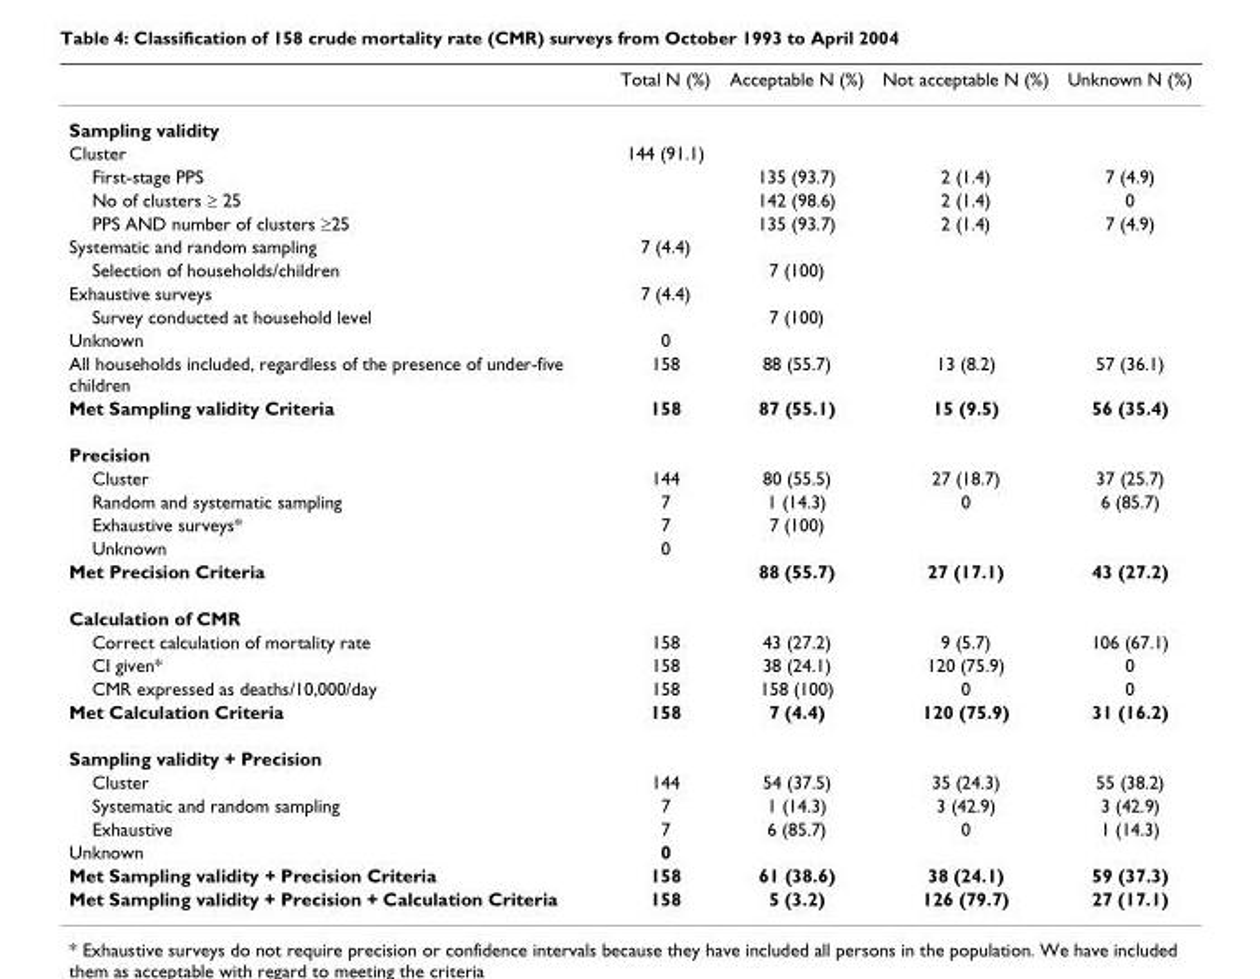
<table><thead><tr><td></td><td>Total N (%)</td><td>Acceptable N (%)</td><td>Not acceptable N (%)</td><td>Unknown N (%)</td></tr></thead><tbody><tr><td colspan="5">Sampling validity</td></tr><tr><td>Cluster</td><td>144 (91.1)</td><td></td><td></td><td></td></tr><tr><td>First-stage PPS</td><td></td><td>135 (93.7)</td><td>2 (1.4)</td><td>7 (4.9)</td></tr><tr><td>No of clusters ≥ 25</td><td></td><td>142 (98.6)</td><td>2 (1.4)</td><td>0</td></tr><tr><td>PPS AND number of clusters ≥25</td><td></td><td>135 (93.7)</td><td>2 (1.4)</td><td>7 (4.9)</td></tr><tr><td>Systematic and random sampling</td><td>7 (4.4)</td><td></td><td></td><td></td></tr><tr><td>Selection of households/children</td><td></td><td>7 (100)</td><td></td><td></td></tr><tr><td>Exhaustive surveys</td><td>7 (4.4)</td><td></td><td></td><td></td></tr><tr><td>Survey conducted at household level</td><td></td><td>7 (100)</td><td></td><td></td></tr><tr><td>Unknown</td><td>0</td><td></td><td></td><td></td></tr><tr><td>All households included, regardless of the presence of under-five children</td><td>158</td><td>88 (55.7)</td><td>13 (8.2)</td><td>57 (36.1)</td></tr><tr><td>Met Sampling validity Criteria</td><td>158</td><td>87 (55.1)</td><td>15 (9.5)</td><td>56 (35.4)</td></tr><tr><td colspan="5">Precision</td></tr><tr><td>Cluster</td><td>144</td><td>80 (55.5)</td><td>27 (18.7)</td><td>37 (25.7)</td></tr><tr><td>Random and systematic sampling</td><td>7</td><td>1 (14.3)</td><td>0</td><td>6 (85.7)</td></tr><tr><td>Exhaustive surveys*</td><td>7</td><td>7 (100)</td><td></td><td></td></tr><tr><td>Unknown</td><td>0</td><td></td><td></td><td></td></tr><tr><td>Met Precision Criteria</td><td></td><td>88 (55.7)</td><td>27 (17.1)</td><td>43 (27.2)</td></tr><tr><td colspan="5">Calculation of CMR</td></tr><tr><td>Correct calculation of mortality rate</td><td>158</td><td>43 (27.2)</td><td>9 (5.7)</td><td>106 (67.1)</td></tr><tr><td>CI given*</td><td>158</td><td>38 (24.1)</td><td>120 (75.9)</td><td>0</td></tr><tr><td>CMR expressed as deaths/10,000/day</td><td>158</td><td>158 (100)</td><td>0</td><td>0</td></tr><tr><td>Met Calculation Criteria</td><td>158</td><td>7 (4.4)</td><td>120 (75.9)</td><td>31 (16.2)</td></tr><tr><td colspan="5">Sampling validity + Precision</td></tr><tr><td>Cluster</td><td>144</td><td>54 (37.5)</td><td>35 (24.3)</td><td>55 (38.2)</td></tr><tr><td>Systematic and random sampling</td><td>7</td><td>1 (14.3)</td><td>3 (42.9)</td><td>3 (42.9)</td></tr><tr><td>Exhaustive</td><td>7</td><td>6 (85.7)</td><td>0</td><td>1 (14.3)</td></tr><tr><td>Unknown</td><td>0</td><td></td><td></td><td></td></tr><tr><td>Met Sampling validity + Precision Criteria</td><td>158</td><td>61 (38.6)</td><td>38 (24.1)</td><td>59 (37.3)</td></tr><tr><td>Met Sampling validity + Precision + Calculation Criteria</td><td>158</td><td>5 (3.2)</td><td>126 (79.7)</td><td>27 (17.1)</td></tr></tbody></table>